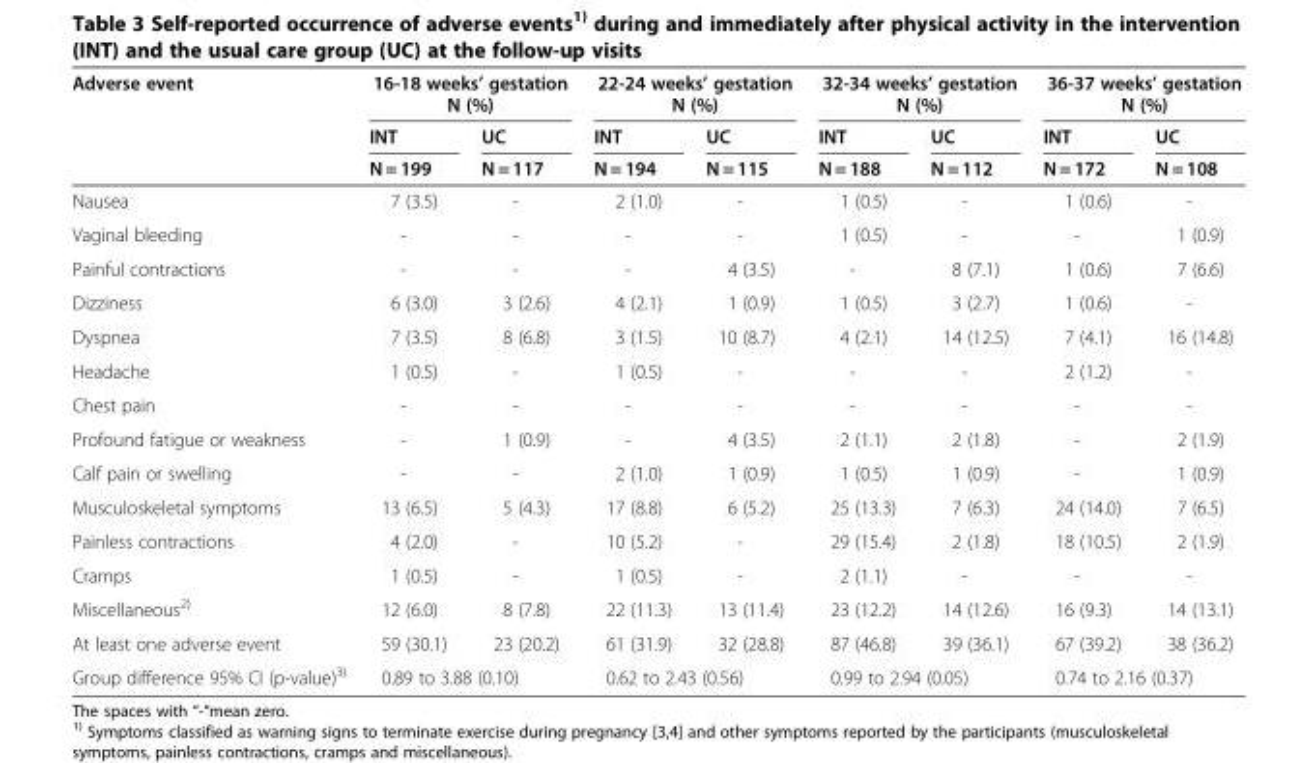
<table><thead><tr><td rowspan="3">Adverse event</td><td colspan="2">16-18 weeks’ gestation N (%)</td><td colspan="2">22-24 weeks’ gestation N (%)</td><td colspan="2">32-34 weeks’ gestation N (%)</td><td colspan="2">36-37 weeks’ gestation N (%)</td></tr><tr><td rowspan="2">INT N = 199</td><td rowspan="2">UC N = 117</td><td rowspan="2">INT N = 194</td><td rowspan="2">UC N = 115</td><td rowspan="2">INT N = 188</td><td rowspan="2">UC N = 112</td><td rowspan="2">INT N = 172</td><td rowspan="2">UC N = 108</td></tr><tr></tr></thead><tbody><tr><td>Nausea</td><td>7 (3.5)</td><td>-</td><td>2 (1.0)</td><td>-</td><td>1 (0.5)</td><td>-</td><td>1 (0.6)</td><td>-</td></tr><tr><td>Vaginal bleeding</td><td>-</td><td>-</td><td>-</td><td>-</td><td>1 (0.5)</td><td>-</td><td>-</td><td>1 (0.9)</td></tr><tr><td>Painful contractions</td><td>-</td><td>-</td><td>-</td><td>4 (3.5)</td><td>-</td><td>8 (7.1)</td><td>1 (0.6)</td><td>7 (6.6)</td></tr><tr><td>Dizziness</td><td>6 (3.0)</td><td>3 (2.6)</td><td>4 (2.1)</td><td>1 (0.9)</td><td>1 (0.5)</td><td>3 (2.7)</td><td>1 (0.6)</td><td>-</td></tr><tr><td>Dyspnea</td><td>7 (3.5)</td><td>8 (6.8)</td><td>3 (1.5)</td><td>10 (8.7)</td><td>4 (2.1)</td><td>14 (12.5)</td><td>7 (4.1)</td><td>16 (14.8)</td></tr><tr><td>Headache</td><td>1 (0.5)</td><td>-</td><td>1 (0.5)</td><td>-</td><td>-</td><td>-</td><td>2 (1.2)</td><td>-</td></tr><tr><td>Chest pain</td><td>-</td><td>-</td><td>-</td><td>-</td><td>-</td><td>-</td><td>-</td><td>-</td></tr><tr><td>Profound fatigue or weakness</td><td>-</td><td>1 (0.9)</td><td>-</td><td>4 (3.5)</td><td>2 (1.1)</td><td>2 (1.8)</td><td>-</td><td>2 (1.9)</td></tr><tr><td>Calf pain or swelling</td><td>-</td><td>-</td><td>2 (1.0)</td><td>1 (0.9)</td><td>1 (0.5)</td><td>1 (0.9)</td><td>-</td><td>1 (0.9)</td></tr><tr><td>Musculoskeletal symptoms</td><td>13 (6.5)</td><td>5 (4.3)</td><td>17 (8.8)</td><td>6 (5.2)</td><td>25 (13.3)</td><td>7 (6.3)</td><td>24 (14.0)</td><td>7 (6.5)</td></tr><tr><td>Painless contractions</td><td>4 (2.0)</td><td>-</td><td>10 (5.2)</td><td>-</td><td>29 (15.4)</td><td>2 (1.8)</td><td>18 (10.5)</td><td>2 (1.9)</td></tr><tr><td>Cramps</td><td>1 (0.5)</td><td>-</td><td>1 (0.5)</td><td>-</td><td>2 (1.1)</td><td>-</td><td>-</td><td>-</td></tr><tr><td>Miscellaneous<sup>2)</sup></td><td>12 (6.0)</td><td>8 (7.8)</td><td>22 (11.3)</td><td>13 (11.4)</td><td>23 (12.2)</td><td>14 (12.6)</td><td>16 (9.3)</td><td>14 (13.1)</td></tr><tr><td>At least one adverse event</td><td>59 (30.1)</td><td>23 (20.2)</td><td>61 (31.9)</td><td>32 (28.8)</td><td>87 (46.8)</td><td>39 (36.1)</td><td>67 (39.2)</td><td>38 (36.2)</td></tr><tr><td>Group difference 95% CI (p-value)<sup>3)</sup></td><td colspan="2">0.89 to 3.88 (0.10)</td><td colspan="2">0.62 to 2.43 (0.56)</td><td colspan="2">0.99 to 2.94 (0.05)</td><td colspan="2">0.74 to 2.16 (0.37)</td></tr></tbody></table>